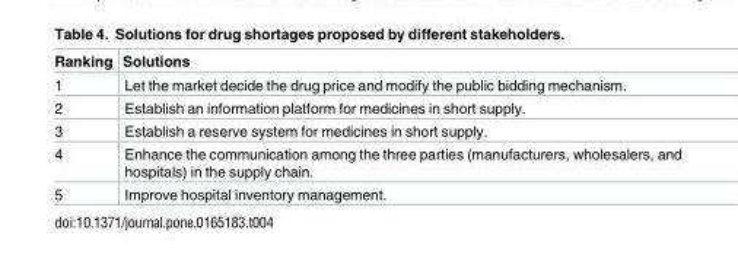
<table><thead><tr><td>Ranking</td><td>Solutions</td></tr></thead><tbody><tr><td>1</td><td>Let the market decide the drug price and modify the public bidding mechanism.</td></tr><tr><td>2</td><td>Establish an information platform for medicines in short supply.</td></tr><tr><td>3</td><td>Establish a reserve system for medicines in short supply.</td></tr><tr><td>4</td><td>Enhance the communication among the three parties (manufacturers, wholesalers, and hospitals) in the supply chain.</td></tr><tr><td>5</td><td>Improve hospital inventory management.</td></tr></tbody></table>